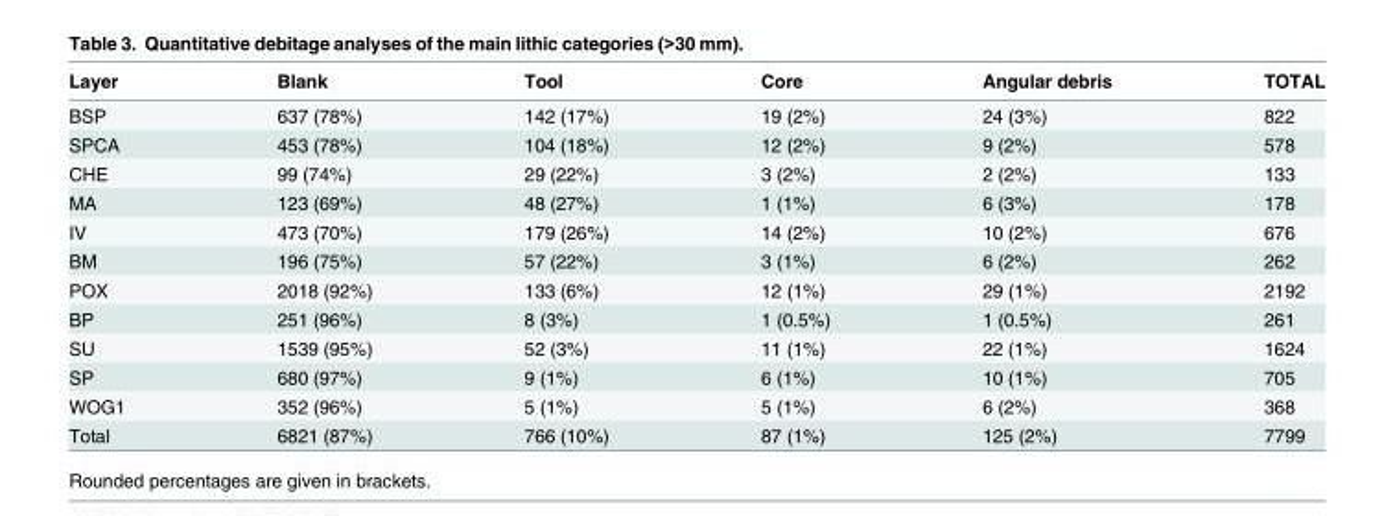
<table><thead><tr><td>Layer</td><td>Blank</td><td>Tool</td><td>Core</td><td>Angular debris</td><td>TOTAL</td></tr></thead><tbody><tr><td>BSP</td><td>637 (78%)</td><td>142 (17%)</td><td>19 (2%)</td><td>24 (3%)</td><td>822</td></tr><tr><td>SPCA</td><td>453 (78%)</td><td>104 (18%)</td><td>12 (2%)</td><td>9 (2%)</td><td>578</td></tr><tr><td>CHE</td><td>99 (74%)</td><td>29 (22%)</td><td>3 (2%)</td><td>2 (2%)</td><td>133</td></tr><tr><td>MA</td><td>123 (69%)</td><td>48 (27%)</td><td>1 (1%)</td><td>6 (3%)</td><td>178</td></tr><tr><td>IV</td><td>473 (70%)</td><td>179 (26%)</td><td>14 (2%)</td><td>10 (2%)</td><td>676</td></tr><tr><td>BM</td><td>196 (75%)</td><td>57 (22%)</td><td>3 (1%)</td><td>6 (2%)</td><td>262</td></tr><tr><td>POX</td><td>2018 (92%)</td><td>133 (6%)</td><td>12 (1%)</td><td>29 (1%)</td><td>2192</td></tr><tr><td>BP</td><td>251 (96%)</td><td>8 (3%)</td><td>1 (0.5%)</td><td>1 (0.5%)</td><td>261</td></tr><tr><td>SU</td><td>1539 (95%)</td><td>52 (3%)</td><td>11 (1%)</td><td>22 (1%)</td><td>1624</td></tr><tr><td>SP</td><td>680 (97%)</td><td>9 (1%)</td><td>6 (1%)</td><td>10 (1%)</td><td>705</td></tr><tr><td>WOG1</td><td>352 (96%)</td><td>5 (1%)</td><td>5 (1%)</td><td>6 (2%)</td><td>368</td></tr><tr><td>Total</td><td>6821 (87%)</td><td>766 (10%)</td><td>87 (1%)</td><td>125 (2%)</td><td>7799</td></tr></tbody></table>